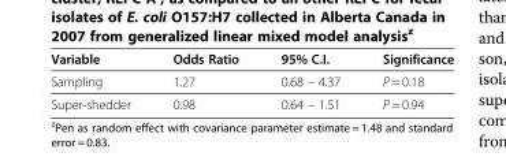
<table><thead><tr><td>Variable</td><td>Odds Ratio</td><td>95% C.I.</td><td>Significance</td></tr></thead><tbody><tr><td>Sampling</td><td>1.27</td><td>0.68 – 4.37</td><td>P = 0.18</td></tr><tr><td>Super-shedder</td><td>0.98</td><td>0.64 – 1.51</td><td>P = 0.94</td></tr></tbody></table>